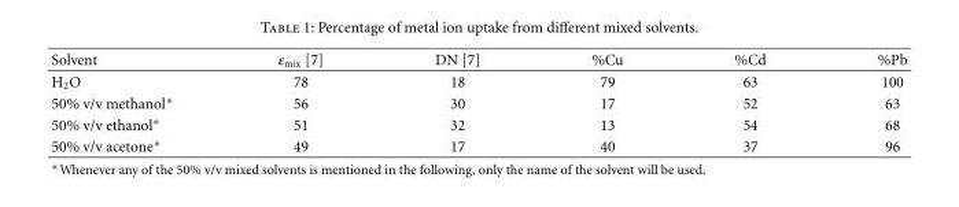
<table><thead><tr><td>Solvent</td><td>ε<sub>mix</sub> [7]</td><td>DN [7]</td><td>%Cu</td><td>%Cd</td><td>%Pb</td></tr></thead><tbody><tr><td>H<sub>2</sub>O</td><td>78</td><td>18</td><td>79</td><td>63</td><td>100</td></tr><tr><td>50% v/v methanol∗</td><td>56</td><td>30</td><td>17</td><td>52</td><td>63</td></tr><tr><td>50% v/v ethanol∗</td><td>51</td><td>32</td><td>13</td><td>54</td><td>68</td></tr><tr><td>50% v/v acetone∗</td><td>49</td><td>17</td><td>40</td><td>37</td><td>96</td></tr></tbody></table>